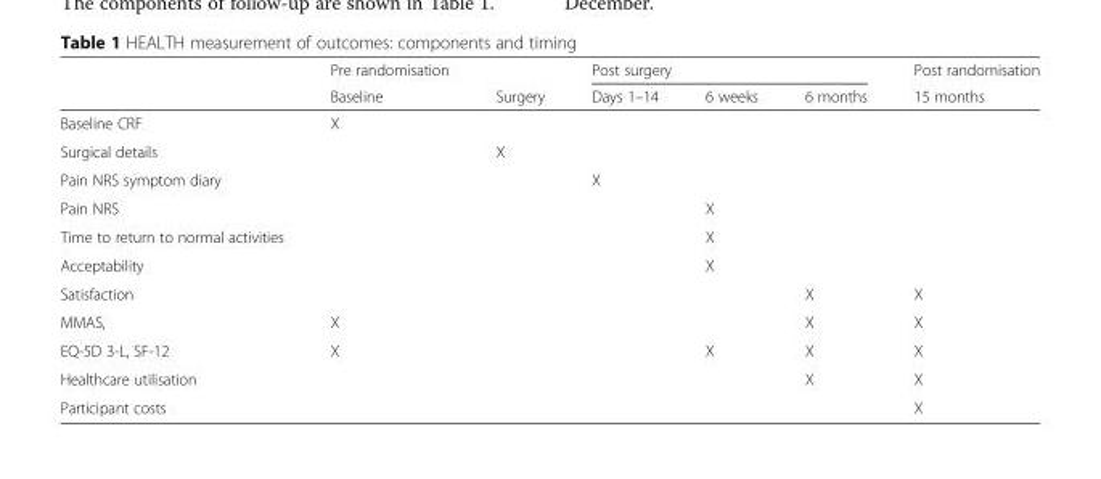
<table><thead><tr><td rowspan="2"></td><td rowspan="2">Pre randomisation Baseline</td><td rowspan="2">Surgery</td><td colspan="3">Post surgery</td><td rowspan="2">Post randomisation 15 months</td></tr><tr><td>Days 1–14</td><td>6 weeks</td><td>6 months</td></tr></thead><tbody><tr><td>Baseline CRF</td><td>X</td><td></td><td></td><td></td><td></td><td></td></tr><tr><td>Surgical details</td><td></td><td>X</td><td></td><td></td><td></td><td></td></tr><tr><td>Pain NRS symptom diary</td><td></td><td></td><td>X</td><td></td><td></td><td></td></tr><tr><td>Pain NRS</td><td></td><td></td><td></td><td>X</td><td></td><td></td></tr><tr><td>Time to return to normal activities</td><td></td><td></td><td></td><td>X</td><td></td><td></td></tr><tr><td>Acceptability</td><td></td><td></td><td></td><td>X</td><td></td><td></td></tr><tr><td>Satisfaction</td><td></td><td></td><td></td><td></td><td>X</td><td>X</td></tr><tr><td>MMAS,</td><td>X</td><td></td><td></td><td></td><td>X</td><td>X</td></tr><tr><td>EQ-5D 3-L, SF-12</td><td>X</td><td></td><td></td><td>X</td><td>X</td><td>X</td></tr><tr><td>Healthcare utilisation</td><td></td><td></td><td></td><td></td><td>X</td><td>X</td></tr><tr><td>Participant costs</td><td></td><td></td><td></td><td></td><td></td><td>X</td></tr></tbody></table>